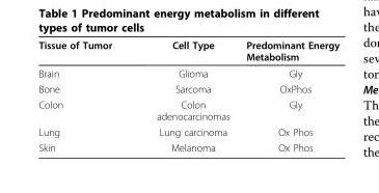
<table><thead><tr><td>Tissue of Tumor</td><td>Cell Type</td><td>Predominant Energy Metabolism</td></tr></thead><tbody><tr><td>Brain</td><td>Glioma</td><td>Gly</td></tr><tr><td>Bone</td><td>Sarcoma</td><td>OxPhos</td></tr><tr><td>Colon</td><td>Colon adenocarcinomas</td><td>Gly</td></tr><tr><td>Lung</td><td>Lung carcinoma</td><td>Ox Phos</td></tr><tr><td>Skin</td><td>Melanoma</td><td>Ox Phos</td></tr></tbody></table>